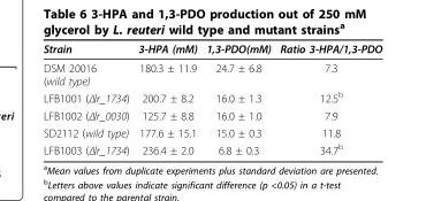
<table><thead><tr><td>Strain</td><td>3-HPA (mM)</td><td>1,3-PDO(mM)</td><td>Ratio 3-HPA/1,3-PDO</td></tr></thead><tbody><tr><td>DSM 20016 (wild type)</td><td>180.3 ± 11.9</td><td>24.7 ± 6.8</td><td>7.3</td></tr><tr><td>LFB1001 (Δlr_1734)</td><td>200.7 ± 8.2</td><td>16.0 ± 1.3</td><td>12.5<sup>b</sup></td></tr><tr><td>LFB1002 (Δlr_0030)</td><td>125.7 ± 8.8</td><td>16.0 ± 1.0</td><td>7.9</td></tr><tr><td>SD2112 (wild type)</td><td>177.6 ± 15.1</td><td>15.0 ± 0.3</td><td>11.8</td></tr><tr><td>LFB1003 (Δlr_1734)</td><td>236.4 ± 2.0</td><td>6.8 ± 0.3</td><td>34.7<sup>b</sup></td></tr></tbody></table>